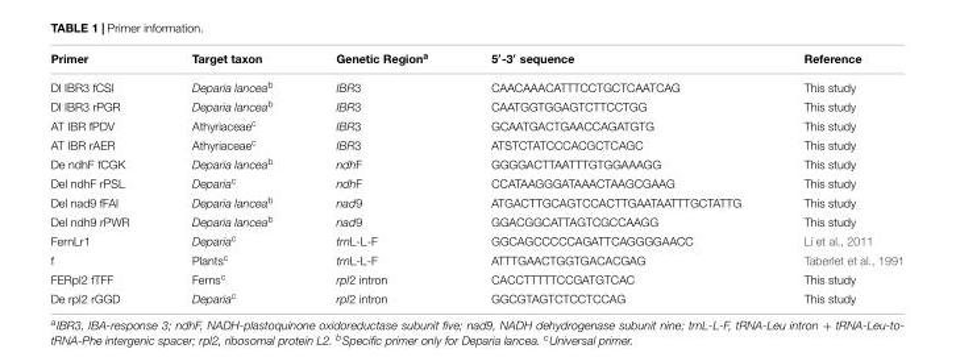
<table><thead><tr><td>Primer</td><td>Target taxon</td><td>Genetic Region<sup>a</sup></td><td>5′-3′ sequence</td><td>Reference</td></tr></thead><tbody><tr><td>Dl IBR3 fCSI</td><td>Deparia lancea<sup>b</sup></td><td>IBR3</td><td>CAACAAACATTTCCTGCTCAATCAG</td><td>This study</td></tr><tr><td>Dl IBR3 rPGR</td><td>Deparia lancea<sup>b</sup></td><td>IBR3</td><td>CAATGGTGGAGTCTTCCTGG</td><td>This study</td></tr><tr><td>AT IBR fPDV</td><td>Athyriaceae<sup>c</sup></td><td>IBR3</td><td>GCAATGACTGAACCAGATGTG</td><td>This study</td></tr><tr><td>AT IBR rAER</td><td>Athyriaceae<sup>c</sup></td><td>IBR3</td><td>ATSTCTATCCCACGCTCAGC</td><td>This study</td></tr><tr><td>De ndhF fCGK</td><td>Deparia lancea<sup>b</sup></td><td>ndhF</td><td>GGGGACTTAATTTGTGGAAAGG</td><td>This study</td></tr><tr><td>Del ndhF rPSL</td><td>Deparia<sup>c</sup></td><td>ndhF</td><td>CCATAAGGGATAAACTAAGCGAAG</td><td>This study</td></tr><tr><td>Del nad9 fFAI</td><td>Deparia lancea<sup>b</sup></td><td>nad9</td><td>ATGACTTGCAGTCCACTTGAATAATTTGCTATTG</td><td>This study</td></tr><tr><td>Del ndh9 rPWR</td><td>Deparia lancea<sup>b</sup></td><td>nad9</td><td>GGACGGCATTAGTCGCCAAGG</td><td>This study</td></tr><tr><td>FernLr1</td><td>Deparia<sup>c</sup></td><td>trnL-L-F</td><td>GGCAGCCCCCAGATTCAGGGGAACC</td><td>Li et al., 2011</td></tr><tr><td>f</td><td>Plants<sup>c</sup></td><td>trnL-L-F</td><td>ATTTGAACTGGTGACACGAG</td><td>Taberlet et al., 1991</td></tr><tr><td>FERpl2 fTFF</td><td>Ferns<sup>c</sup></td><td>rpl2 intron</td><td>CACCTTTTTCCGATGTCAC</td><td>This study</td></tr><tr><td>De rpl2 rGGD</td><td>Deparia<sup>c</sup></td><td>rpl2 intron</td><td>GGCGTAGTCTCCTCCAG</td><td>This study</td></tr></tbody></table>